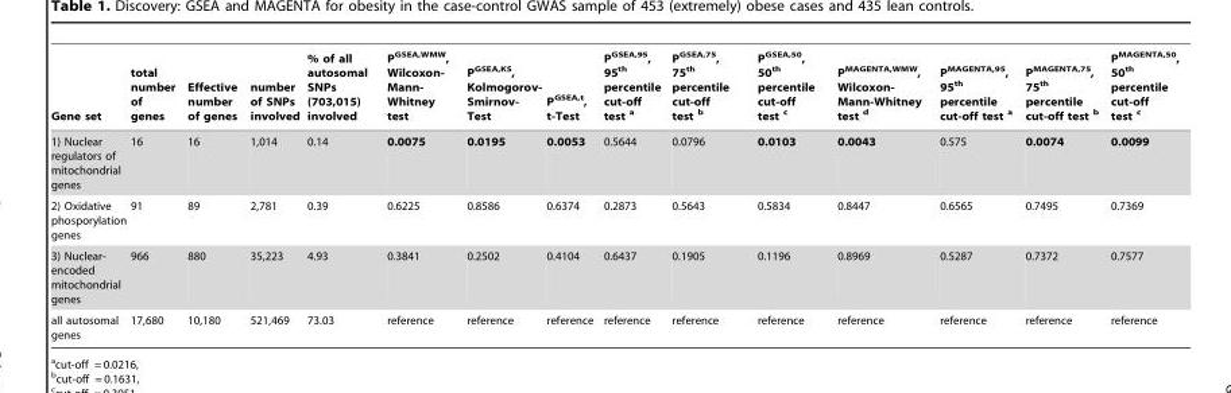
<table><thead><tr><td>Gene set</td><td>total number of genes</td><td>Effective number of genes</td><td>number of SNPs involved</td><td>% of all autosomal SNPs (703,015) involved</td><td>P<sup>GSEA,WMW</sup>, Wilcoxon- Mann- Whitney test</td><td>P<sup>GSEA,KS</sup>, Kolmogorov- Smirnov- Test</td><td>P<sup>GSEA,t</sup>, t-Test</td><td>P<sup>GSEA,95</sup>, 95<sup>th</sup> percentile cut-off test a</td><td>P<sup>GSEA,75</sup>, 75<sup>th</sup> percentile cut-off test b</td><td>P<sup>GSEA,50</sup>, 50<sup>th</sup> percentile cut-off test c</td><td>P<sup>MAGENTA,WMW</sup>, Wilcoxon- Mann-Whitney test d</td><td>P<sup>MAGENTA,95</sup>, 95<sup>th</sup> percentile cut-off test a</td><td>P<sup>MAGENTA,75</sup>, 75<sup>th</sup> percentile cut-off test b</td><td>P<sup>MAGENTA,50</sup>, 50<sup>th</sup> percentile cut-off test c</td></tr></thead><tbody><tr><td>1) Nuclear regulators of mitochondrial genes</td><td>16</td><td>16</td><td>1,014</td><td>0.14</td><td>0.0075</td><td>0.0195</td><td>0.0053</td><td>0.5644</td><td>0.0796</td><td>0.0103</td><td>0.0043</td><td>0.575</td><td>0.0074</td><td>0.0099</td></tr><tr><td>2) Oxidative phosporylation genes</td><td>91</td><td>89</td><td>2,781</td><td>0.39</td><td>0.6225</td><td>0.8586</td><td>0.6374</td><td>0.2873</td><td>0.5643</td><td>0.5834</td><td>0.8447</td><td>0.6565</td><td>0.7495</td><td>0.7369</td></tr><tr><td>3) Nuclear- encoded mitochondrial genes</td><td>966</td><td>880</td><td>35,223</td><td>4.93</td><td>0.3841</td><td>0.2502</td><td>0.4104</td><td>0.6437</td><td>0.1905</td><td>0.1196</td><td>0.8969</td><td>0.5287</td><td>0.7372</td><td>0.7577</td></tr><tr><td>all autosomal genes</td><td>17,680</td><td>10,180</td><td>521,469</td><td>73.03</td><td>reference</td><td>reference</td><td>reference</td><td>reference</td><td>reference</td><td>reference</td><td>reference</td><td>reference</td><td>reference</td><td>reference</td></tr></tbody></table>